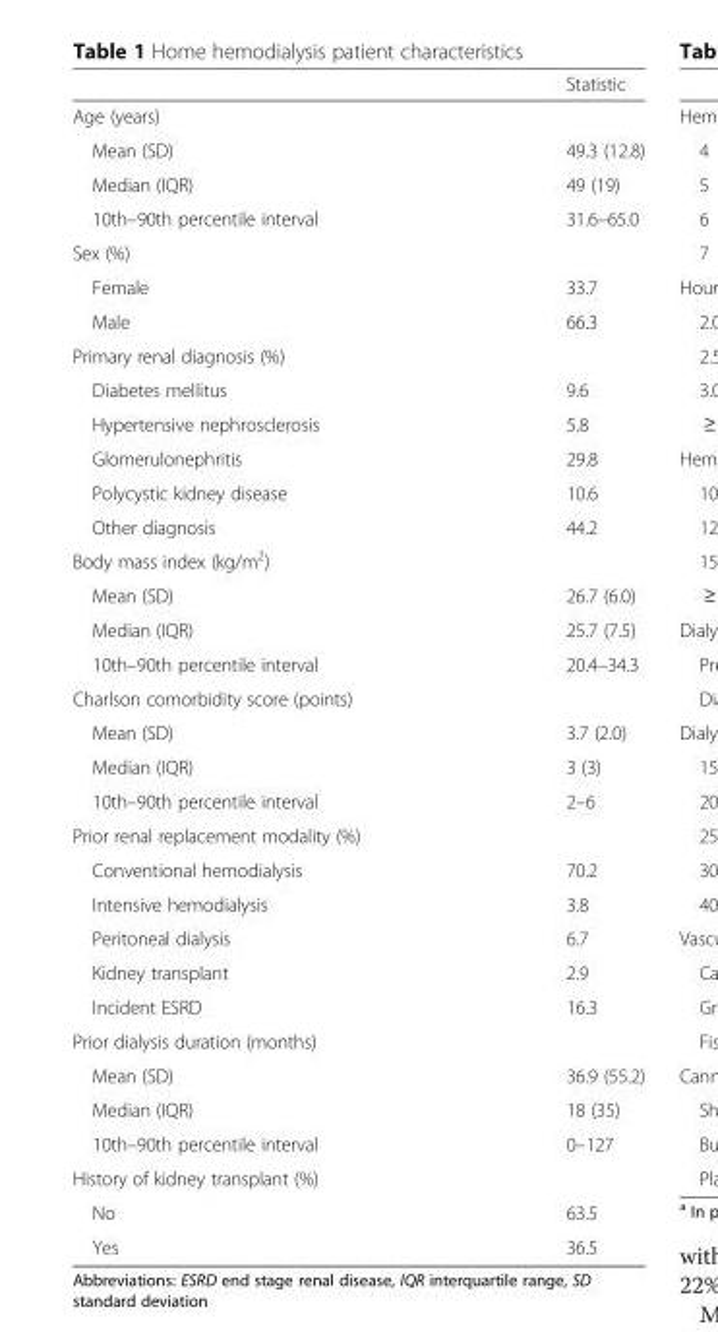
<table><thead><tr><td></td><td>Statistic</td></tr></thead><tbody><tr><td colspan="2">Age (years)</td></tr><tr><td>Mean (SD)</td><td>49.3 (12.8)</td></tr><tr><td>Median (IQR)</td><td>49 (19)</td></tr><tr><td>10th–90th percentile interval</td><td>31.6–65.0</td></tr><tr><td colspan="2">Sex (%)</td></tr><tr><td>Female</td><td>33.7</td></tr><tr><td>Male</td><td>66.3</td></tr><tr><td colspan="2">Primary renal diagnosis (%)</td></tr><tr><td>Diabetes mellitus</td><td>9.6</td></tr><tr><td>Hypertensive nephrosclerosis</td><td>5.8</td></tr><tr><td>Glomerulonephritis</td><td>29.8</td></tr><tr><td>Polycystic kidney disease</td><td>10.6</td></tr><tr><td>Other diagnosis</td><td>44.2</td></tr><tr><td colspan="2">Body mass index (kg/m<sup>2</sup>)</td></tr><tr><td>Mean (SD)</td><td>26.7 (6.0)</td></tr><tr><td>Median (IQR)</td><td>25.7 (7.5)</td></tr><tr><td>10th–90th percentile interval</td><td>20.4–34.3</td></tr><tr><td colspan="2">Charlson comorbidity score (points)</td></tr><tr><td>Mean (SD)</td><td>3.7 (2.0)</td></tr><tr><td>Median (IQR)</td><td>3 (3)</td></tr><tr><td>10th–90th percentile interval</td><td>2–6</td></tr><tr><td colspan="2">Prior renal replacement modality (%)</td></tr><tr><td>Conventional hemodialysis</td><td>70.2</td></tr><tr><td>Intensive hemodialysis</td><td>3.8</td></tr><tr><td>Peritoneal dialysis</td><td>6.7</td></tr><tr><td>Kidney transplant</td><td>2.9</td></tr><tr><td>Incident ESRD</td><td>16.3</td></tr><tr><td colspan="2">Prior dialysis duration (months)</td></tr><tr><td>Mean (SD)</td><td>36.9 (55.2)</td></tr><tr><td>Median (IQR)</td><td>18 (35)</td></tr><tr><td>10th–90th percentile interval</td><td>0–127</td></tr><tr><td colspan="2">History of kidney transplant (%)</td></tr><tr><td>No</td><td>63.5</td></tr><tr><td>Yes</td><td>36.5</td></tr></tbody></table>